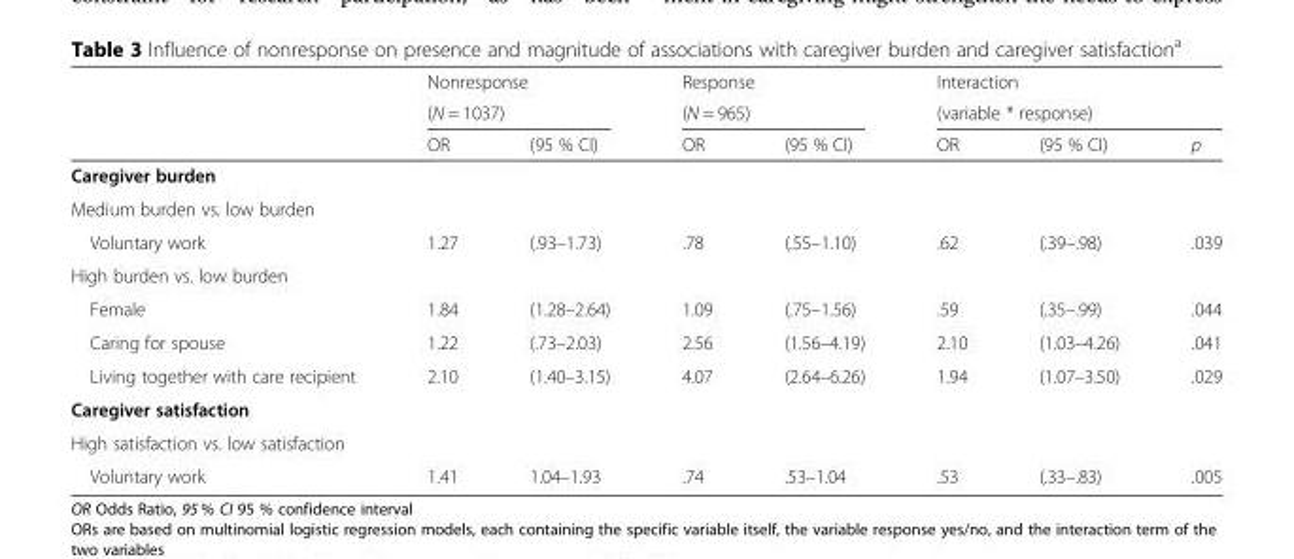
<table><thead><tr><td rowspan="3"></td><td rowspan="2" colspan="2">Nonresponse (N = 1037)</td><td rowspan="2" colspan="2">Response (N = 965)</td><td rowspan="2" colspan="3">Interaction (variable * response)</td></tr><tr></tr><tr><td>OR</td><td>(95 % CI)</td><td>OR</td><td>(95 % CI)</td><td>OR</td><td>(95 % CI)</td><td>p</td></tr></thead><tbody><tr><td colspan="8">Caregiver burden</td></tr><tr><td colspan="8">Medium burden vs. low burden</td></tr><tr><td>Voluntary work</td><td>1.27</td><td>(.93–1.73)</td><td>.78</td><td>(.55–1.10)</td><td>.62</td><td>(.39–.98)</td><td>.039</td></tr><tr><td colspan="8">High burden vs. low burden</td></tr><tr><td>Female</td><td>1.84</td><td>(1.28–2.64)</td><td>1.09</td><td>(.75–1.56)</td><td>.59</td><td>(.35–.99)</td><td>.044</td></tr><tr><td>Caring for spouse</td><td>1.22</td><td>(.73–2.03)</td><td>2.56</td><td>(1.56–4.19)</td><td>2.10</td><td>(1.03–4.26)</td><td>.041</td></tr><tr><td>Living together with care recipient</td><td>2.10</td><td>(1.40–3.15)</td><td>4.07</td><td>(2.64–6.26)</td><td>1.94</td><td>(1.07–3.50)</td><td>.029</td></tr><tr><td colspan="8">Caregiver satisfaction</td></tr><tr><td colspan="8">High satisfaction vs. low satisfaction</td></tr><tr><td>Voluntary work</td><td>1.41</td><td>1.04–1.93</td><td>.74</td><td>.53–1.04</td><td>.53</td><td>(.33–.83)</td><td>.005</td></tr></tbody></table>